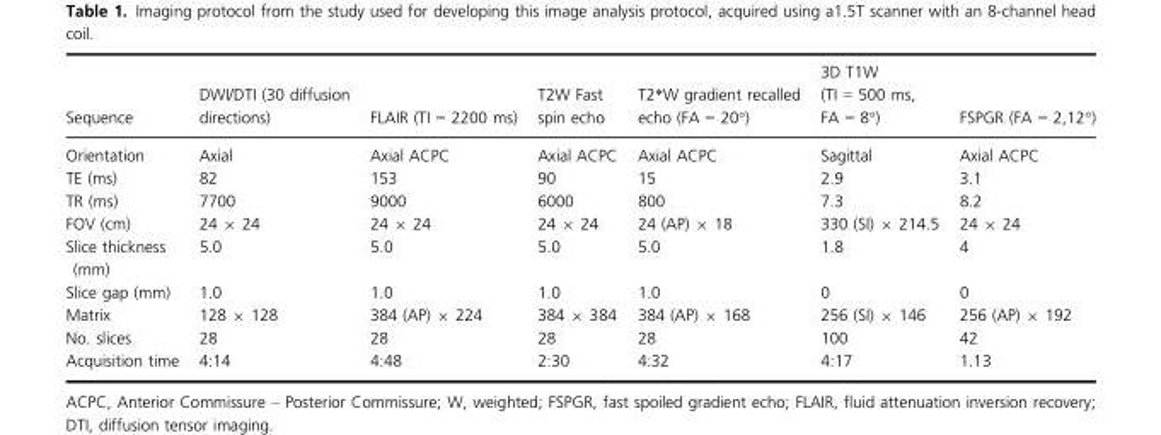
<table><thead><tr><td>Sequence</td><td>DWI/DTI (30 diffusion directions)</td><td>FLAIR (TI = 2200 ms)</td><td>T2W Fast spin echo</td><td>T2*W gradient recalled echo (FA = 20°)</td><td>3D T1W (TI = 500 ms, FA = 8°)</td><td>FSPGR (FA = 2,12°)</td></tr></thead><tbody><tr><td>Orientation</td><td>Axial</td><td>Axial ACPC</td><td>Axial ACPC</td><td>Axial ACPC</td><td>Sagittal</td><td>Axial ACPC</td></tr><tr><td>TE (ms)</td><td>82</td><td>153</td><td>90</td><td>15</td><td>2.9</td><td>3.1</td></tr><tr><td>TR (ms)</td><td>7700</td><td>9000</td><td>6000</td><td>800</td><td>7.3</td><td>8.2</td></tr><tr><td>FOV (cm)</td><td>24 × 24</td><td>24 × 24</td><td>24 × 24</td><td>24 (AP) × 18</td><td>330 (SI) × 214.5</td><td>24 × 24</td></tr><tr><td>Slice thickness (mm)</td><td>5.0</td><td>5.0</td><td>5.0</td><td>5.0</td><td>1.8</td><td>4</td></tr><tr><td>Slice gap (mm)</td><td>1.0</td><td>1.0</td><td>1.0</td><td>1.0</td><td>0</td><td>0</td></tr><tr><td>Matrix</td><td>128 × 128</td><td>384 (AP) × 224</td><td>384 × 384</td><td>384 (AP) × 168</td><td>256 (SI) × 146</td><td>256 (AP) × 192</td></tr><tr><td>No. slices</td><td>28</td><td>28</td><td>28</td><td>28</td><td>100</td><td>42</td></tr><tr><td>Acquisition time</td><td>4:14</td><td>4:48</td><td>2:30</td><td>4:32</td><td>4:17</td><td>1.13</td></tr></tbody></table>